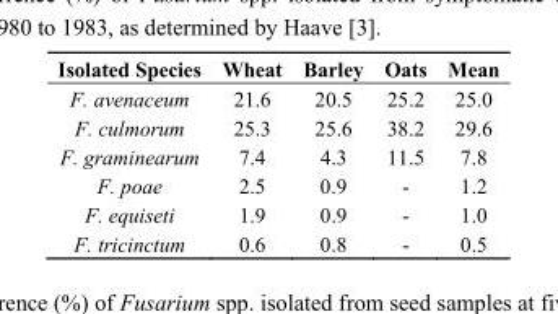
<table><thead><tr><td>Isolated Species</td><td>Wheat</td><td>Barley</td><td>Oats</td><td>Mean</td></tr></thead><tbody><tr><td>F. avenaceum</td><td>21.6</td><td>20.5</td><td>25.2</td><td>25.0</td></tr><tr><td>F. culmorum</td><td>25.3</td><td>25.6</td><td>38.2</td><td>29.6</td></tr><tr><td>F. graminearum</td><td>7.4</td><td>4.3</td><td>11.5</td><td>7.8</td></tr><tr><td>F. poae</td><td>2.5</td><td>0.9</td><td>-</td><td>1.2</td></tr><tr><td>F. equiseti</td><td>1.9</td><td>0.9</td><td>-</td><td>1.0</td></tr><tr><td>F. tricinctum</td><td>0.6</td><td>0.8</td><td>-</td><td>0.5</td></tr></tbody></table>